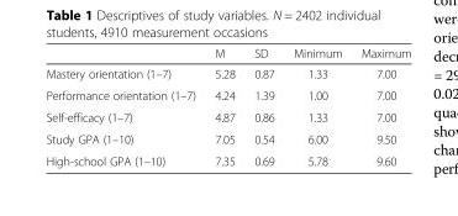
<table><thead><tr><td></td><td>M</td><td>SD</td><td>Minimum</td><td>Maximum</td></tr></thead><tbody><tr><td>Mastery orientation (1–7)</td><td>5.28</td><td>0.87</td><td>1.33</td><td>7.00</td></tr><tr><td>Performance orientation (1–7)</td><td>4.24</td><td>1.39</td><td>1.00</td><td>7.00</td></tr><tr><td>Self-efficacy (1–7)</td><td>4.87</td><td>0.86</td><td>1.33</td><td>7.00</td></tr><tr><td>Study GPA (1–10)</td><td>7.05</td><td>0.54</td><td>6.00</td><td>9.50</td></tr><tr><td>High-school GPA (1–10)</td><td>7.35</td><td>0.69</td><td>5.78</td><td>9.60</td></tr></tbody></table>